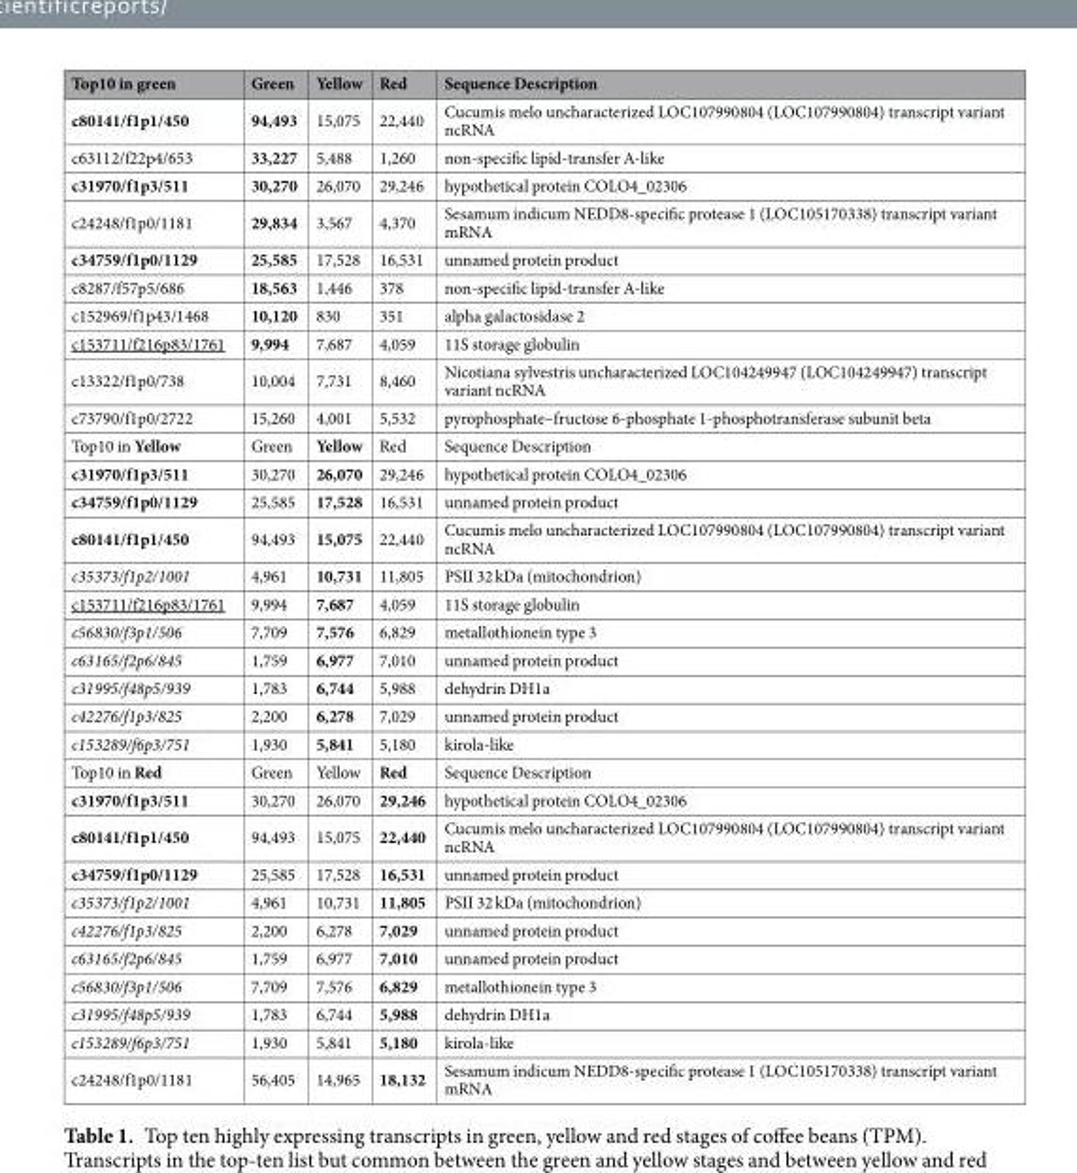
<table><thead><tr><td>Top10 in green</td><td>Green</td><td>Yellow</td><td>Red</td><td>Sequence Description</td></tr></thead><tbody><tr><td>c80141/f1p1/450</td><td>94,493</td><td>15,075</td><td>22,440</td><td>Cucumis melo uncharacterized LOC107990804 (LOC107990804) transcript variant ncRNA</td></tr><tr><td>c63112/f22p4/653</td><td>33,227</td><td>5,488</td><td>1,260</td><td>non-specific lipid-transfer A-like</td></tr><tr><td>c31970/f1p3/511</td><td>30,270</td><td>26,070</td><td>29,246</td><td>hypothetical protein COLO4_02306</td></tr><tr><td>c24248/f1p0/1181</td><td>29,834</td><td>3,567</td><td>4,370</td><td>Sesamum indicum NEDD8-specific protease 1 (LOC105170338) transcript variant mRNA</td></tr><tr><td>c34759/f1p0/1129</td><td>25,585</td><td>17,528</td><td>16,531</td><td>unnamed protein product</td></tr><tr><td>c8287/f57p5/686</td><td>18,563</td><td>1,446</td><td>378</td><td>non-specific lipid-transfer A-like</td></tr><tr><td>c152969/f1p43/1468</td><td>10,120</td><td>830</td><td>351</td><td>alpha galactosidase 2</td></tr><tr><td>c153711/f216p83/1761</td><td>9,994</td><td>7,687</td><td>4,059</td><td>11S storage globulin</td></tr><tr><td>c13322/f1p0/738</td><td>10,004</td><td>7,731</td><td>8,460</td><td>Nicotiana sylvestris uncharacterized LOC104249947 (LOC104249947) transcript variant ncRNA</td></tr><tr><td>c73790/f1p0/2722</td><td>15,260</td><td>4,001</td><td>5,532</td><td>pyrophosphate–fructose 6-phosphate 1-phosphotransferase subunit beta</td></tr><tr><td>Top10 in Yellow</td><td>Green</td><td>Yellow</td><td>Red</td><td>Sequence Description</td></tr><tr><td>c31970/f1p3/511</td><td>30,270</td><td>26,070</td><td>29,246</td><td>hypothetical protein COLO4_02306</td></tr><tr><td>c34759/f1p0/1129</td><td>25,585</td><td>17,528</td><td>16,531</td><td>unnamed protein product</td></tr><tr><td>c80141/f1p1/450</td><td>94,493</td><td>15,075</td><td>22,440</td><td>Cucumis melo uncharacterized LOC107990804 (LOC107990804) transcript variant ncRNA</td></tr><tr><td>c35373/f1p2/1001</td><td>4,961</td><td>10,731</td><td>11,805</td><td>PSII 32 kDa (mitochondrion)</td></tr><tr><td>c153711/f216p83/1761</td><td>9,994</td><td>7,687</td><td>4,059</td><td>11S storage globulin</td></tr><tr><td>c56830/f3p1/506</td><td>7,709</td><td>7,576</td><td>6,829</td><td>metallothionein type 3</td></tr><tr><td>c63165/f2p6/845</td><td>1,759</td><td>6,977</td><td>7,010</td><td>unnamed protein product</td></tr><tr><td>c31995/f48p5/939</td><td>1,783</td><td>6,744</td><td>5,988</td><td>dehydrin DH1a</td></tr><tr><td>c42276/f1p3/825</td><td>2,200</td><td>6,278</td><td>7,029</td><td>unnamed protein product</td></tr><tr><td>c153289/f6p3/751</td><td>1,930</td><td>5,841</td><td>5,180</td><td>kirola-like</td></tr><tr><td>Top10 in Red</td><td>Green</td><td>Yellow</td><td>Red</td><td>Sequence Description</td></tr><tr><td>c31970/f1p3/511</td><td>30,270</td><td>26,070</td><td>29,246</td><td>hypothetical protein COLO4_02306</td></tr><tr><td>c80141/f1p1/450</td><td>94,493</td><td>15,075</td><td>22,440</td><td>Cucumis melo uncharacterized LOC107990804 (LOC107990804) transcript variant ncRNA</td></tr><tr><td>c34759/f1p0/1129</td><td>25,585</td><td>17,528</td><td>16,531</td><td>unnamed protein product</td></tr><tr><td>c35373/f1p2/1001</td><td>4,961</td><td>10,731</td><td>11,805</td><td>PSII 32 kDa (mitochondrion)</td></tr><tr><td>c42276/f1p3/825</td><td>2,200</td><td>6,278</td><td>7,029</td><td>unnamed protein product</td></tr><tr><td>c63165/f2p6/845</td><td>1,759</td><td>6,977</td><td>7,010</td><td>unnamed protein product</td></tr><tr><td>c56830/f3p1/506</td><td>7,709</td><td>7,576</td><td>6,829</td><td>metallothionein type 3</td></tr><tr><td>c31995/f48p5/939</td><td>1,783</td><td>6,744</td><td>5,988</td><td>dehydrin DH1a</td></tr><tr><td>c153289/f6p3/751</td><td>1,930</td><td>5,841</td><td>5,180</td><td>kirola-like</td></tr><tr><td>c24248/f1p0/1181</td><td>56,405</td><td>14,965</td><td>18,132</td><td>Sesamum indicum NEDD8-specific protease 1 (LOC105170338) transcript variant mRNA</td></tr></tbody></table>